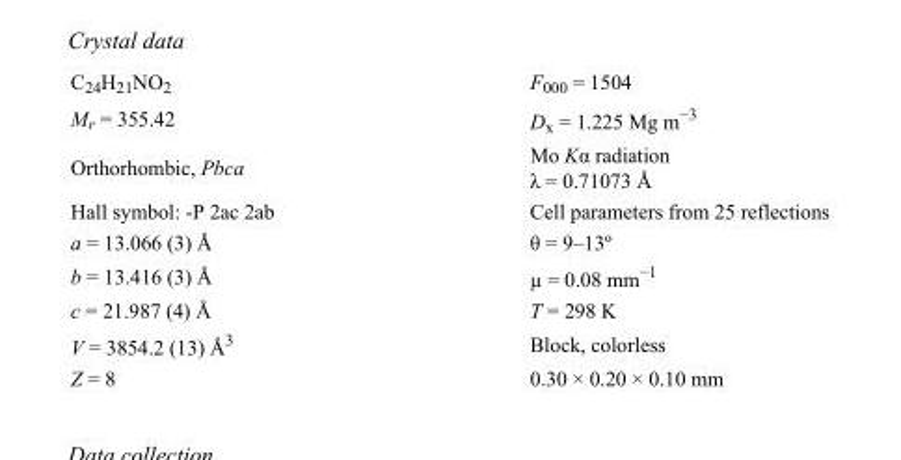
<table><tbody><tr><td>C<sub>24</sub>H<sub>21</sub>NO<sub>2</sub></td><td>F000 = 1504</td></tr><tr><td>M<sub>r</sub> = 355.42</td><td>D<sub>x</sub> = 1.225 Mg m<sup>−3</sup></td></tr><tr><td>Orthorhombic, Pbca</td><td>Mo Kα radiation λ = 0.71073 Å</td></tr><tr><td>Hall symbol: -P 2ac 2ab</td><td>Cell parameters from 25 reflections</td></tr><tr><td>a = 13.066 (3) Å</td><td>θ = 9–13º</td></tr><tr><td>b = 13.416 (3) Å</td><td>µ = 0.08 mm<sup>−1</sup></td></tr><tr><td>c = 21.987 (4) Å</td><td>T = 298 K</td></tr><tr><td>V = 3854.2 (13) Å<sup>3</sup></td><td>Block, colorless</td></tr><tr><td>Z = 8</td><td>0.30 × 0.20 × 0.10 mm</td></tr></tbody></table>